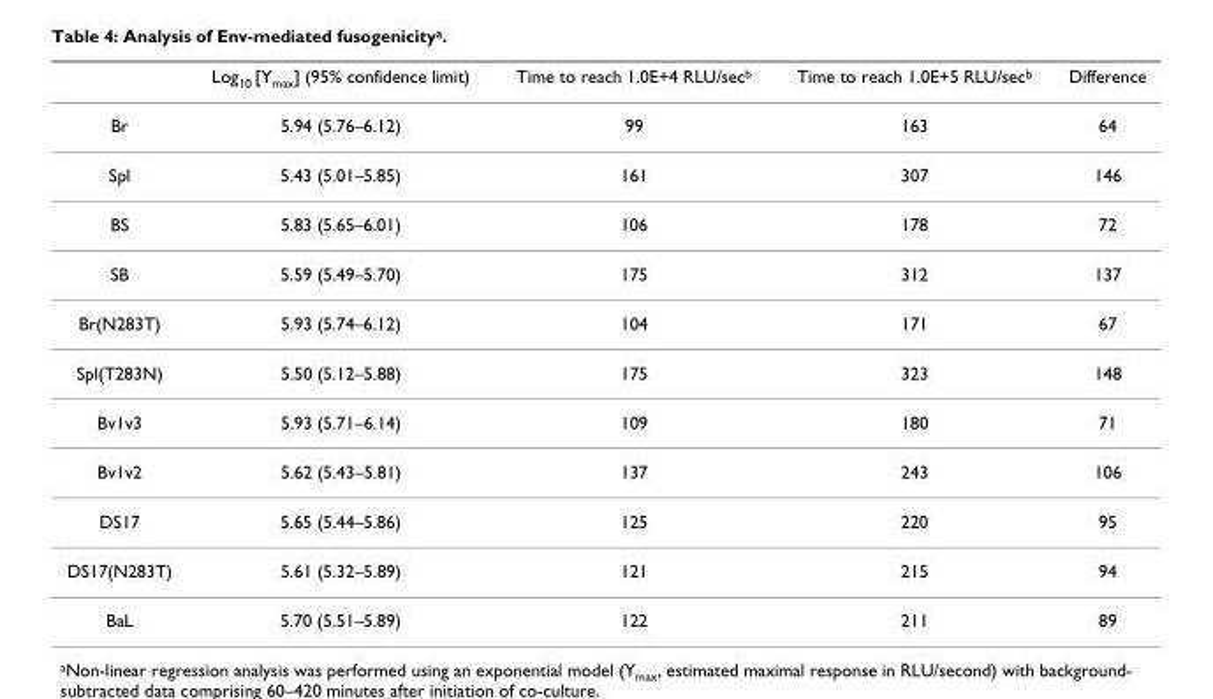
<table><thead><tr><td></td><td>Log<sub>10</sub> [Y<sub>max</sub>] (95% confidence limit)</td><td>Time to reach 1.0E+4 RLU/sec<sup>b</sup></td><td>Time to reach 1.0E+5 RLU/sec<sup>b</sup></td><td>Difference</td></tr></thead><tbody><tr><td>Br</td><td>5.94 (5.76–6.12)</td><td>99</td><td>163</td><td>64</td></tr><tr><td>Spl</td><td>5.43 (5.01–5.85)</td><td>161</td><td>307</td><td>146</td></tr><tr><td>BS</td><td>5.83 (5.65–6.01)</td><td>106</td><td>178</td><td>72</td></tr><tr><td>SB</td><td>5.59 (5.49–5.70)</td><td>175</td><td>312</td><td>137</td></tr><tr><td>Br(N283T)</td><td>5.93 (5.74–6.12)</td><td>104</td><td>171</td><td>67</td></tr><tr><td>Spl(T283N)</td><td>5.50 (5.12–5.88)</td><td>175</td><td>323</td><td>148</td></tr><tr><td>Bv1v3</td><td>5.93 (5.71–6.14)</td><td>109</td><td>180</td><td>71</td></tr><tr><td>Bv1v2</td><td>5.62 (5.43–5.81)</td><td>137</td><td>243</td><td>106</td></tr><tr><td>DS17</td><td>5.65 (5.44–5.86)</td><td>125</td><td>220</td><td>95</td></tr><tr><td>DS17(N283T)</td><td>5.61 (5.32–5.89)</td><td>121</td><td>215</td><td>94</td></tr><tr><td>BaL</td><td>5.70 (5.51–5.89)</td><td>122</td><td>211</td><td>89</td></tr></tbody></table>